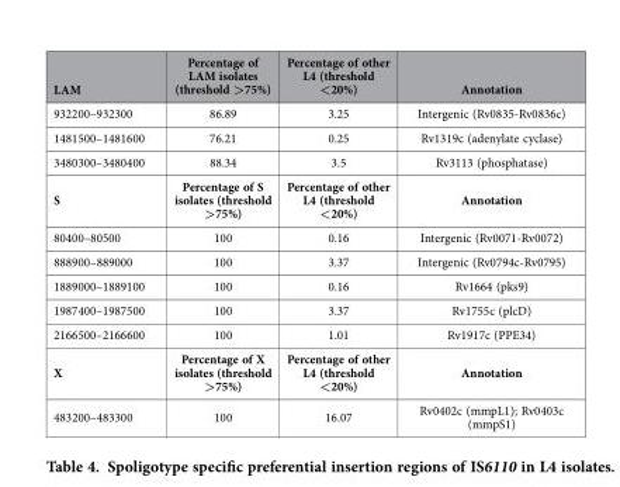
<table><thead><tr><td>LAM</td><td>Percentage of LAM isolates (threshold &gt;75%)</td><td>Percentage of other L4 (threshold &lt;20%)</td><td>Annotation</td></tr></thead><tbody><tr><td>932200–932300</td><td>86.89</td><td>3.25</td><td>Intergenic (Rv0835-Rv0836c)</td></tr><tr><td>1481500–1481600</td><td>76.21</td><td>0.25</td><td>Rv1319c (adenylate cyclase)</td></tr><tr><td>3480300–3480400</td><td>88.34</td><td>3.5</td><td>Rv3113 (phosphatase)</td></tr><tr><td>S</td><td>Percentage of S isolates (threshold &gt;75%)</td><td>Percentage of other L4 (threshold &lt;20%)</td><td>Annotation</td></tr><tr><td>80400–80500</td><td>100</td><td>0.16</td><td>Intergenic (Rv0071-Rv0072)</td></tr><tr><td>888900–889000</td><td>100</td><td>3.37</td><td>Intergenic (Rv0794c-Rv0795)</td></tr><tr><td>1889000–1889100</td><td>100</td><td>0.16</td><td>Rv1664 (pks9)</td></tr><tr><td>1987400–1987500</td><td>100</td><td>3.37</td><td>Rv1755c (plcD)</td></tr><tr><td>2166500–2166600</td><td>100</td><td>1.01</td><td>Rv1917c (PPE34)</td></tr><tr><td>X</td><td>Percentage of X isolates (threshold &gt;75%)</td><td>Percentage of other L4 (threshold &lt;20%)</td><td>Annotation</td></tr><tr><td>483200–483300</td><td>100</td><td>16.07</td><td>Rv0402c (mmpL1); Rv0403c (mmpS1)</td></tr></tbody></table>